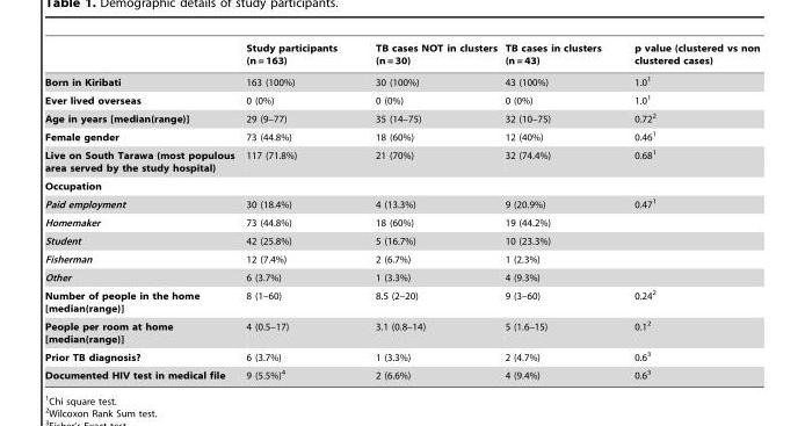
<table><thead><tr><td></td><td>Study participants (n = 163)</td><td>TB cases NOT in clusters (n = 30)</td><td>TB cases in clusters (n = 43)</td><td>p value (clustered vs non clustered cases)</td></tr></thead><tbody><tr><td>Born in Kiribati</td><td>163 (100%)</td><td>30 (100%)</td><td>43 (100%)</td><td>1.0<sup>1</sup></td></tr><tr><td>Ever lived overseas</td><td>0 (0%)</td><td>0 (0%)</td><td>0 (0%)</td><td>1.0<sup>1</sup></td></tr><tr><td>Age in years [median(range)]</td><td>29 (9–77)</td><td>35 (14–75)</td><td>32 (10–75)</td><td>0.72<sup>2</sup></td></tr><tr><td>Female gender</td><td>73 (44.8%)</td><td>18 (60%)</td><td>12 (40%)</td><td>0.46<sup>1</sup></td></tr><tr><td>Live on South Tarawa (most populous area served by the study hospital)</td><td>117 (71.8%)</td><td>21 (70%)</td><td>32 (74.4%)</td><td>0.68<sup>1</sup></td></tr><tr><td colspan="5">Occupation</td></tr><tr><td>Paid employment</td><td>30 (18.4%)</td><td>4 (13.3%)</td><td>9 (20.9%)</td><td>0.47<sup>1</sup></td></tr><tr><td>Homemaker</td><td>73 (44.8%)</td><td>18 (60%)</td><td>19 (44.2%)</td><td></td></tr><tr><td>Student</td><td>42 (25.8%)</td><td>5 (16.7%)</td><td>10 (23.3%)</td><td></td></tr><tr><td>Fisherman</td><td>12 (7.4%)</td><td>2 (6.7%)</td><td>1 (2.3%)</td><td></td></tr><tr><td>Other</td><td>6 (3.7%)</td><td>1 (3.3%)</td><td>4 (9.3%)</td><td></td></tr><tr><td>Number of people in the home [median(range)]</td><td>8 (1–60)</td><td>8.5 (2–20)</td><td>9 (3–60)</td><td>0.24<sup>2</sup></td></tr><tr><td>People per room at home [median(range)]</td><td>4 (0.5–17)</td><td>3.1 (0.8–14)</td><td>5 (1.6–15)</td><td>0.1<sup>2</sup></td></tr><tr><td>Prior TB diagnosis?</td><td>6 (3.7%)</td><td>1 (3.3%)</td><td>2 (4.7%)</td><td>0.6<sup>3</sup></td></tr><tr><td>Documented HIV test in medical file</td><td>9 (5.5%)<sup>4</sup></td><td>2 (6.6%)</td><td>4 (9.4%)</td><td>0.6<sup>3</sup></td></tr></tbody></table>